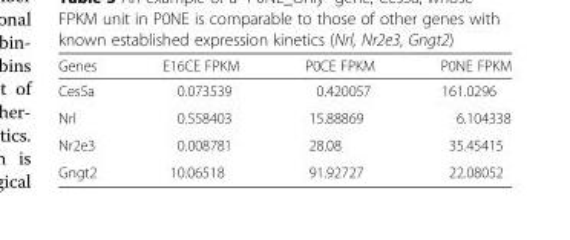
<table><thead><tr><td>Genes</td><td>E16CE FPKM</td><td>P0CE FPKM</td><td>P0NE FPKM</td></tr></thead><tbody><tr><td>Ces5a</td><td>0.073539</td><td>0.420057</td><td>161.0296</td></tr><tr><td>Nrl</td><td>0.558403</td><td>15.88869</td><td>6.104338</td></tr><tr><td>Nr2e3</td><td>0.008781</td><td>28.08</td><td>35.45415</td></tr><tr><td>Gngt2</td><td>10.06518</td><td>91.92727</td><td>22.08052</td></tr></tbody></table>